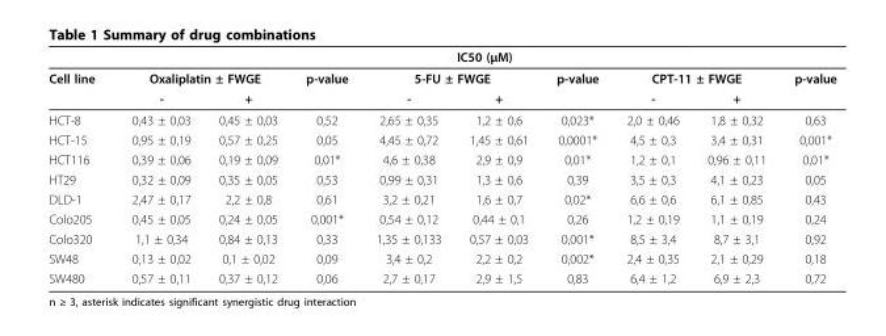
<table><thead><tr><td rowspan="3">Cell line</td><td colspan="9">IC50 (μM)</td></tr><tr><td colspan="2">Oxaliplatin ± FWGE</td><td rowspan="2">p-value</td><td colspan="2">5-FU ± FWGE</td><td rowspan="2">p-value</td><td colspan="2">CPT-11 ± FWGE</td><td rowspan="2">p-value</td></tr><tr><td>-</td><td>+</td><td>-</td><td>+</td><td>-</td><td>+</td></tr></thead><tbody><tr><td>HCT-8</td><td>0,43 ± 0,03</td><td>0,45 ± 0,03</td><td>0,52</td><td>2,65 ± 0,35</td><td>1,2 ± 0,6</td><td>0,023*</td><td>2,0 ± 0,46</td><td>1,8 ± 0,32</td><td>0,63</td></tr><tr><td>HCT-15</td><td>0,95 ± 0,19</td><td>0,57 ± 0,25</td><td>0,05</td><td>4,45 ± 0,72</td><td>1,45 ± 0,61</td><td>0,0001*</td><td>4,5 ± 0,3</td><td>3,4 ± 0,31</td><td>0,001*</td></tr><tr><td>HCT116</td><td>0,39 ± 0,06</td><td>0,19 ± 0,09</td><td>0,01*</td><td>4,6 ± 0,38</td><td>2,9 ± 0,9</td><td>0,01*</td><td>1,2 ± 0,1</td><td>0,96 ± 0,11</td><td>0,01*</td></tr><tr><td>HT29</td><td>0,32 ± 0,09</td><td>0,35 ± 0,05</td><td>0,53</td><td>0,99 ± 0,31</td><td>1,3 ± 0,6</td><td>0,39</td><td>3,5 ± 0,3</td><td>4,1 ± 0,23</td><td>0,05</td></tr><tr><td>DLD-1</td><td>2,47 ± 0,17</td><td>2,2 ± 0,8</td><td>0,61</td><td>3,2 ± 0,21</td><td>1,6 ± 0,7</td><td>0,02*</td><td>6,6 ± 0,6</td><td>6,1 ± 0,85</td><td>0,43</td></tr><tr><td>Colo205</td><td>0,45 ± 0,05</td><td>0,24 ± 0,05</td><td>0,001*</td><td>0,54 ± 0,12</td><td>0,44 ± 0,1</td><td>0,26</td><td>1,2 ± 0,19</td><td>1,1 ± 0,19</td><td>0,24</td></tr><tr><td>Colo320</td><td>1,1 ± 0,34</td><td>0,84 ± 0,13</td><td>0,33</td><td>1,35 ± 0,133</td><td>0,57 ± 0,03</td><td>0,001*</td><td>8,5 ± 3,4</td><td>8,7 ± 3,1</td><td>0,92</td></tr><tr><td>SW48</td><td>0,13 ± 0,02</td><td>0,1 ± 0,02</td><td>0,09</td><td>3,4 ± 0,2</td><td>2,2 ± 0,2</td><td>0,002*</td><td>2,4 ± 0,35</td><td>2,1 ± 0,29</td><td>0,18</td></tr><tr><td>SW480</td><td>0,57 ± 0,11</td><td>0,37 ± 0,12</td><td>0,06</td><td>2,7 ± 0,17</td><td>2,9 ± 1,5</td><td>0,83</td><td>6,4 ± 1,2</td><td>6,9 ± 2,3</td><td>0,72</td></tr></tbody></table>